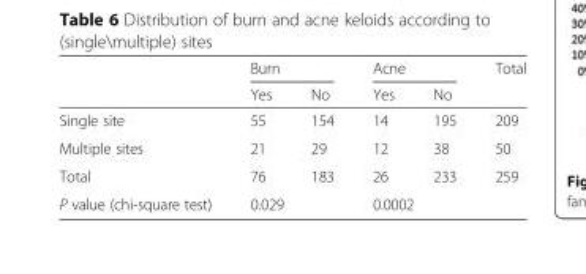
<table><thead><tr><td rowspan="2"></td><td colspan="2">Burn</td><td colspan="2">Acne</td><td rowspan="2">Total</td></tr><tr><td>Yes</td><td>No</td><td>Yes</td><td>No</td></tr></thead><tbody><tr><td>Single site</td><td>55</td><td>154</td><td>14</td><td>195</td><td>209</td></tr><tr><td>Multiple sites</td><td>21</td><td>29</td><td>12</td><td>38</td><td>50</td></tr><tr><td>Total</td><td>76</td><td>183</td><td>26</td><td>233</td><td>259</td></tr><tr><td>P value (chi-square test)</td><td colspan="2">0.029</td><td colspan="2">0.0002</td><td></td></tr></tbody></table>